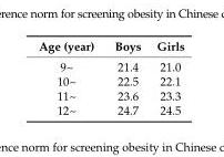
<table><thead><tr><td>Age (year)</td><td>Boys</td><td>Girls</td></tr></thead><tbody><tr><td>9~</td><td>21.4</td><td>21.0</td></tr><tr><td>10~</td><td>22.5</td><td>22.1</td></tr><tr><td>11~</td><td>23.6</td><td>23.3</td></tr><tr><td>12~</td><td>24.7</td><td>24.5</td></tr></tbody></table>